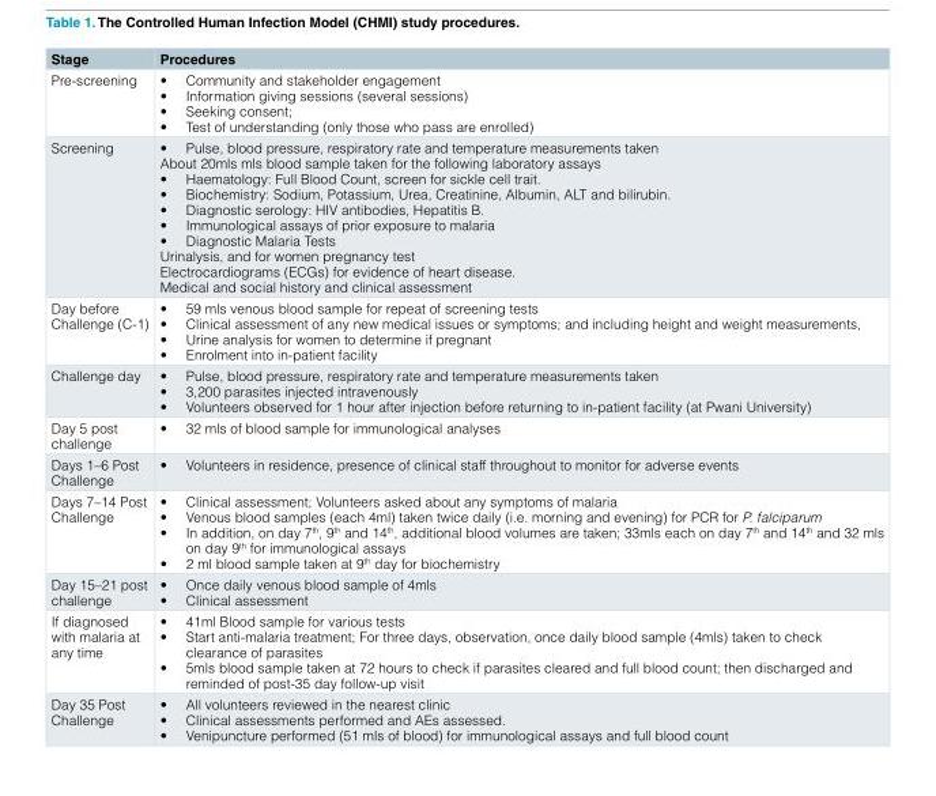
<table><thead><tr><td>Stage</td><td>Procedures</td></tr></thead><tbody><tr><td>Pre-screening</td><td>• Community and stakeholder engagement • Information giving sessions (several sessions) • Seeking consent; • Test of understanding (only those who pass are enrolled)</td></tr><tr><td>Screening</td><td>• Pulse, blood pressure, respiratory rate and temperature measurements taken About 20mls mls blood sample taken for the following laboratory assays • Haematology: Full Blood Count, screen for sickle cell trait. • Biochemistry: Sodium, Potassium, Urea, Creatinine, Albumin, ALT and bilirubin. • Diagnostic serology: HIV antibodies, Hepatitis B. • Immunological assays of prior exposure to malaria • Diagnostic Malaria Tests Urinalysis, and for women pregnancy test Electrocardiograms (ECGs) for evidence of heart disease. Medical and social history and clinical assessment</td></tr><tr><td>Day before Challenge (C-1)</td><td>• 59 mls venous blood sample for repeat of screening tests • Clinical assessment of any new medical issues or symptoms; and including height and weight measurements, • Urine analysis for women to determine if pregnant • Enrolment into in-patient facility</td></tr><tr><td>Challenge day</td><td>• Pulse, blood pressure, respiratory rate and temperature measurements taken • 3,200 parasites injected intravenously • Volunteers observed for 1 hour after injection before returning to in-patient facility (at Pwani University)</td></tr><tr><td>Day 5 post challenge</td><td>• 32 mls of blood sample for immunological analyses</td></tr><tr><td>Days 1–6 Post Challenge</td><td>• Volunteers in residence, presence of clinical staff throughout to monitor for adverse events</td></tr><tr><td>Days 7–14 Post Challenge</td><td>• Clinical assessment; Volunteers asked about any symptoms of malaria • Venous blood samples (each 4ml) taken twice daily (i.e. morning and evening) for PCR for P. falciparum • In addition, on day 7<sup>th</sup>, 9<sup>th</sup> and 14<sup>th</sup>, additional blood volumes are taken; 33mls each on day 7<sup>th</sup> and 14<sup>th</sup> and 32 mls on day 9<sup>th</sup> for immunological assays • 2 ml blood sample taken at 9<sup>th</sup> day for biochemistry</td></tr><tr><td>Day 15–21 post challenge</td><td>• Once daily venous blood sample of 4mls • Clinical assessment</td></tr><tr><td>If diagnosed with malaria at any time</td><td>• 41ml Blood sample for various tests • Start anti-malaria treatment; For three days, observation, once daily blood sample (4mls) taken to check clearance of parasites • 5mls blood sample taken at 72 hours to check if parasites cleared and full blood count; then discharged and reminded of post-35 day follow-up visit</td></tr><tr><td>Day 35 Post Challenge</td><td>• All volunteers reviewed in the nearest clinic • Clinical assessments performed and AEs assessed. • Venipuncture performed (51 mls of blood) for immunological assays and full blood count</td></tr></tbody></table>